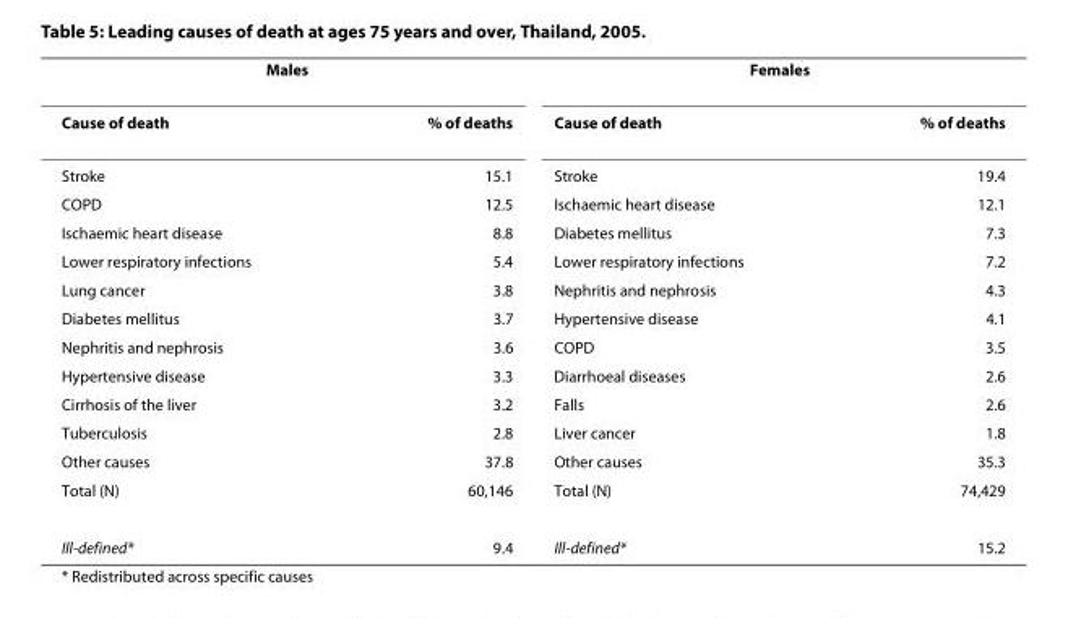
<table><tbody><tr><td colspan="2">Males</td><td colspan="2">Females</td></tr><tr><td>Cause of death</td><td>% of deaths</td><td>Cause of death</td><td>% of deaths</td></tr><tr><td>Stroke</td><td>15.1</td><td>Stroke</td><td>19.4</td></tr><tr><td>COPD</td><td>12.5</td><td>Ischaemic heart disease</td><td>12.1</td></tr><tr><td>Ischaemic heart disease</td><td>8.8</td><td>Diabetes mellitus</td><td>7.3</td></tr><tr><td>Lower respiratory infections</td><td>5.4</td><td>Lower respiratory infections</td><td>7.2</td></tr><tr><td>Lung cancer</td><td>3.8</td><td>Nephritis and nephrosis</td><td>4.3</td></tr><tr><td>Diabetes mellitus</td><td>3.7</td><td>Hypertensive disease</td><td>4.1</td></tr><tr><td>Nephritis and nephrosis</td><td>3.6</td><td>COPD</td><td>3.5</td></tr><tr><td>Hypertensive disease</td><td>3.3</td><td>Diarrhoeal diseases</td><td>2.6</td></tr><tr><td>Cirrhosis of the liver</td><td>3.2</td><td>Falls</td><td>2.6</td></tr><tr><td>Tuberculosis</td><td>2.8</td><td>Liver cancer</td><td>1.8</td></tr><tr><td>Other causes</td><td>37.8</td><td>Other causes</td><td>35.3</td></tr><tr><td>Total (N)</td><td>60,146</td><td>Total (N)</td><td>74,429</td></tr><tr><td>Ill-defined*</td><td>9.4</td><td>Ill-defined*</td><td>15.2</td></tr></tbody></table>